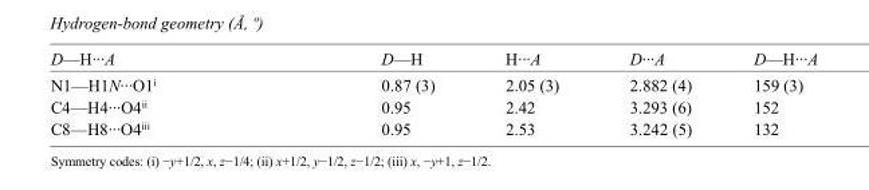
<table><tbody><tr><td>D—H···A</td><td>D—H</td><td>H···A</td><td>D···A</td><td>D—H···A</td></tr><tr><td>N1—H1N···O1<sup>i</sup></td><td>0.87 (3)</td><td>2.05 (3)</td><td>2.882 (4)</td><td>159 (3)</td></tr><tr><td>C4—H4···O4<sup>ii</sup></td><td>0.95</td><td>2.42</td><td>3.293 (6)</td><td>152</td></tr><tr><td>C8—H8···O4<sup>iii</sup></td><td>0.95</td><td>2.53</td><td>3.242 (5)</td><td>132</td></tr></tbody></table>